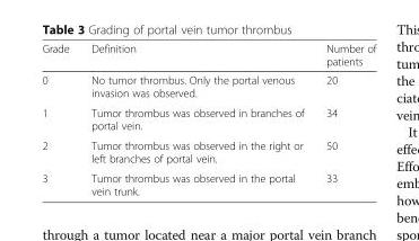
<table><thead><tr><td>Grade</td><td>Definition</td><td>Number of patients</td></tr></thead><tbody><tr><td>0</td><td>No tumor thrombus. Only the portal venous invasion was observed.</td><td>20</td></tr><tr><td>1</td><td>Tumor thrombus was observed in branches of portal vein.</td><td>34</td></tr><tr><td>2</td><td>Tumor thrombus was observed in the right or left branches of portal vein.</td><td>50</td></tr><tr><td>3</td><td>Tumor thrombus was observed in the portal vein trunk.</td><td>33</td></tr></tbody></table>